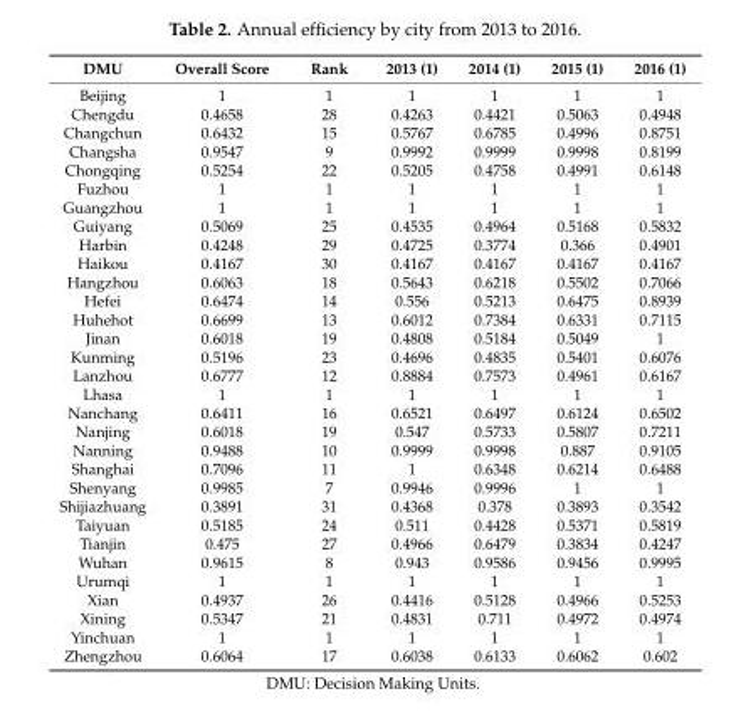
<table><thead><tr><td>DMU</td><td>Overall Score</td><td>Rank</td><td>2013 (1)</td><td>2014 (1)</td><td>2015 (1)</td><td>2016 (1)</td></tr></thead><tbody><tr><td>Beijing</td><td>1</td><td>1</td><td>1</td><td>1</td><td>1</td><td>1</td></tr><tr><td>Chengdu</td><td>0.4658</td><td>28</td><td>0.4263</td><td>0.4421</td><td>0.5063</td><td>0.4948</td></tr><tr><td>Changchun</td><td>0.6432</td><td>15</td><td>0.5767</td><td>0.6785</td><td>0.4996</td><td>0.8751</td></tr><tr><td>Changsha</td><td>0.9547</td><td>9</td><td>0.9992</td><td>0.9999</td><td>0.9998</td><td>0.8199</td></tr><tr><td>Chongqing</td><td>0.5254</td><td>22</td><td>0.5205</td><td>0.4758</td><td>0.4991</td><td>0.6148</td></tr><tr><td>Fuzhou</td><td>1</td><td>1</td><td>1</td><td>1</td><td>1</td><td>1</td></tr><tr><td>Guangzhou</td><td>1</td><td>1</td><td>1</td><td>1</td><td>1</td><td>1</td></tr><tr><td>Guiyang</td><td>0.5069</td><td>25</td><td>0.4535</td><td>0.4964</td><td>0.5168</td><td>0.5832</td></tr><tr><td>Harbin</td><td>0.4248</td><td>29</td><td>0.4725</td><td>0.3774</td><td>0.366</td><td>0.4901</td></tr><tr><td>Haikou</td><td>0.4167</td><td>30</td><td>0.4167</td><td>0.4167</td><td>0.4167</td><td>0.4167</td></tr><tr><td>Hangzhou</td><td>0.6063</td><td>18</td><td>0.5643</td><td>0.6218</td><td>0.5502</td><td>0.7066</td></tr><tr><td>Hefei</td><td>0.6474</td><td>14</td><td>0.556</td><td>0.5213</td><td>0.6475</td><td>0.8939</td></tr><tr><td>Huhehot</td><td>0.6699</td><td>13</td><td>0.6012</td><td>0.7384</td><td>0.6331</td><td>0.7115</td></tr><tr><td>Jinan</td><td>0.6018</td><td>19</td><td>0.4808</td><td>0.5184</td><td>0.5049</td><td>1</td></tr><tr><td>Kunming</td><td>0.5196</td><td>23</td><td>0.4696</td><td>0.4835</td><td>0.5401</td><td>0.6076</td></tr><tr><td>Lanzhou</td><td>0.6777</td><td>12</td><td>0.8884</td><td>0.7573</td><td>0.4961</td><td>0.6167</td></tr><tr><td>Lhasa</td><td>1</td><td>1</td><td>1</td><td>1</td><td>1</td><td>1</td></tr><tr><td>Nanchang</td><td>0.6411</td><td>16</td><td>0.6521</td><td>0.6497</td><td>0.6124</td><td>0.6502</td></tr><tr><td>Nanjing</td><td>0.6018</td><td>19</td><td>0.547</td><td>0.5733</td><td>0.5807</td><td>0.7211</td></tr><tr><td>Nanning</td><td>0.9488</td><td>10</td><td>0.9999</td><td>0.9998</td><td>0.887</td><td>0.9105</td></tr><tr><td>Shanghai</td><td>0.7096</td><td>11</td><td>1</td><td>0.6348</td><td>0.6214</td><td>0.6488</td></tr><tr><td>Shenyang</td><td>0.9985</td><td>7</td><td>0.9946</td><td>0.9996</td><td>1</td><td>1</td></tr><tr><td>Shijiazhuang</td><td>0.3891</td><td>31</td><td>0.4368</td><td>0.378</td><td>0.3893</td><td>0.3542</td></tr><tr><td>Taiyuan</td><td>0.5185</td><td>24</td><td>0.511</td><td>0.4428</td><td>0.5371</td><td>0.5819</td></tr><tr><td>Tianjin</td><td>0.475</td><td>27</td><td>0.4966</td><td>0.6479</td><td>0.3834</td><td>0.4247</td></tr><tr><td>Wuhan</td><td>0.9615</td><td>8</td><td>0.943</td><td>0.9586</td><td>0.9456</td><td>0.9995</td></tr><tr><td>Urumqi</td><td>1</td><td>1</td><td>1</td><td>1</td><td>1</td><td>1</td></tr><tr><td>Xian</td><td>0.4937</td><td>26</td><td>0.4416</td><td>0.5128</td><td>0.4966</td><td>0.5253</td></tr><tr><td>Xining</td><td>0.5347</td><td>21</td><td>0.4831</td><td>0.711</td><td>0.4972</td><td>0.4974</td></tr><tr><td>Yinchuan</td><td>1</td><td>1</td><td>1</td><td>1</td><td>1</td><td>1</td></tr><tr><td>Zhengzhou</td><td>0.6064</td><td>17</td><td>0.6038</td><td>0.6133</td><td>0.6062</td><td>0.602</td></tr></tbody></table>